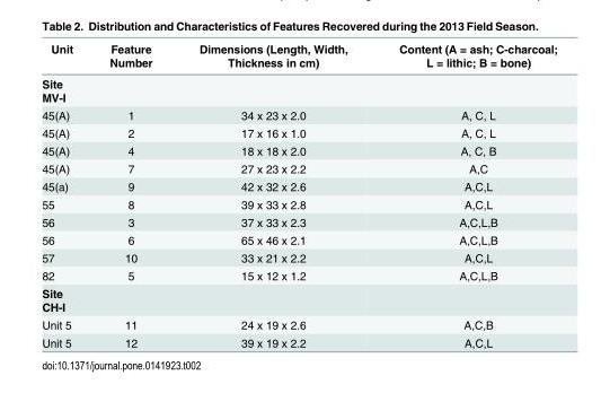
<table><thead><tr><td>Unit</td><td>Feature Number</td><td>Dimensions (Length, Width, Thickness in cm)</td><td>Content (A = ash; C-charcoal; L = lithic; B = bone)</td></tr></thead><tbody><tr><td colspan="4">Site MV-I</td></tr><tr><td>45(A)</td><td>1</td><td>34 x 23 x 2.0</td><td>A, C, L</td></tr><tr><td>45(A)</td><td>2</td><td>17 x 16 x 1.0</td><td>A, C, L</td></tr><tr><td>45(A)</td><td>4</td><td>18 x 18 x 2.0</td><td>A, C, B</td></tr><tr><td>45(A)</td><td>7</td><td>27 x 23 x 2.2</td><td>A,C</td></tr><tr><td>45(a)</td><td>9</td><td>42 x 32 x 2.6</td><td>A,C,L</td></tr><tr><td>55</td><td>8</td><td>39 x 33 x 2.8</td><td>A,C,L</td></tr><tr><td>56</td><td>3</td><td>37 x 33 x 2.3</td><td>A,C,L,B</td></tr><tr><td>56</td><td>6</td><td>65 x 46 x 2.1</td><td>A,C,L,B</td></tr><tr><td>57</td><td>10</td><td>33 x 21 x 2.2</td><td>A,C,L</td></tr><tr><td>82</td><td>5</td><td>15 x 12 x 1.2</td><td>A,C,L,B</td></tr><tr><td colspan="4">Site CH-I</td></tr><tr><td>Unit 5</td><td>11</td><td>24 x 19 x 2.6</td><td>A,C,B</td></tr><tr><td>Unit 5</td><td>12</td><td>39 x 19 x 2.2</td><td>A,C,L</td></tr></tbody></table>